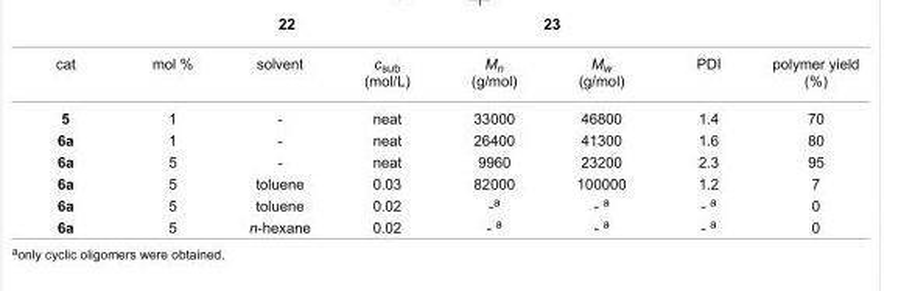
<table><tbody><tr><td>cat</td><td>mol %</td><td>solvent</td><td>c<sub>sub</sub> (mol/L)</td><td>M<sub>n</sub> (g/mol)</td><td>M<sub>w</sub> (g/mol)</td><td>PDI</td><td>polymer yield (%)</td></tr><tr><td>5</td><td>1</td><td>-</td><td>neat</td><td>33000</td><td>46800</td><td>1.4</td><td>70</td></tr><tr><td>6a</td><td>1</td><td>-</td><td>neat</td><td>26400</td><td>41300</td><td>1.6</td><td>80</td></tr><tr><td>6a</td><td>5</td><td>-</td><td>neat</td><td>9960</td><td>23200</td><td>2.3</td><td>95</td></tr><tr><td>6a</td><td>5</td><td>toluene</td><td>0.03</td><td>82000</td><td>100000</td><td>1.2</td><td>7</td></tr><tr><td>6a</td><td>5</td><td>toluene</td><td>0.02</td><td>-<sup>a</sup></td><td>- <sup>a</sup></td><td>- <sup>a</sup></td><td>0</td></tr><tr><td>6a</td><td>5</td><td>n-hexane</td><td>0.02</td><td>- <sup>a</sup></td><td>- <sup>a</sup></td><td>- <sup>a</sup></td><td>0</td></tr></tbody></table>